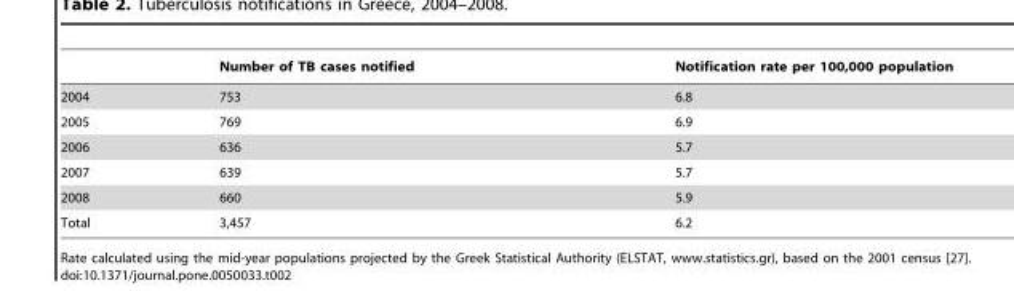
<table><thead><tr><td></td><td>Number of TB cases notified</td><td>Notification rate per 100,000 population</td></tr></thead><tbody><tr><td>2004</td><td>753</td><td>6.8</td></tr><tr><td>2005</td><td>769</td><td>6.9</td></tr><tr><td>2006</td><td>636</td><td>5.7</td></tr><tr><td>2007</td><td>639</td><td>5.7</td></tr><tr><td>2008</td><td>660</td><td>5.9</td></tr><tr><td>Total</td><td>3,457</td><td>6.2</td></tr></tbody></table>